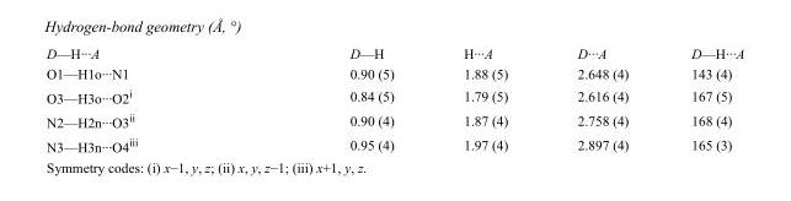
<table><tbody><tr><td>D—H···A</td><td>D—H</td><td>H···A</td><td>D···A</td><td>D—H···A</td></tr><tr><td>O1—H1o···N1</td><td>0.90 (5)</td><td>1.88 (5)</td><td>2.648 (4)</td><td>143 (4)</td></tr><tr><td>O3—H3o···O2<sup>i</sup></td><td>0.84 (5)</td><td>1.79 (5)</td><td>2.616 (4)</td><td>167 (5)</td></tr><tr><td>N2—H2n···O3<sup>ii</sup></td><td>0.90 (4)</td><td>1.87 (4)</td><td>2.758 (4)</td><td>168 (4)</td></tr><tr><td>N3—H3n···O4<sup>iii</sup></td><td>0.95 (4)</td><td>1.97 (4)</td><td>2.897 (4)</td><td>165 (3)</td></tr></tbody></table>